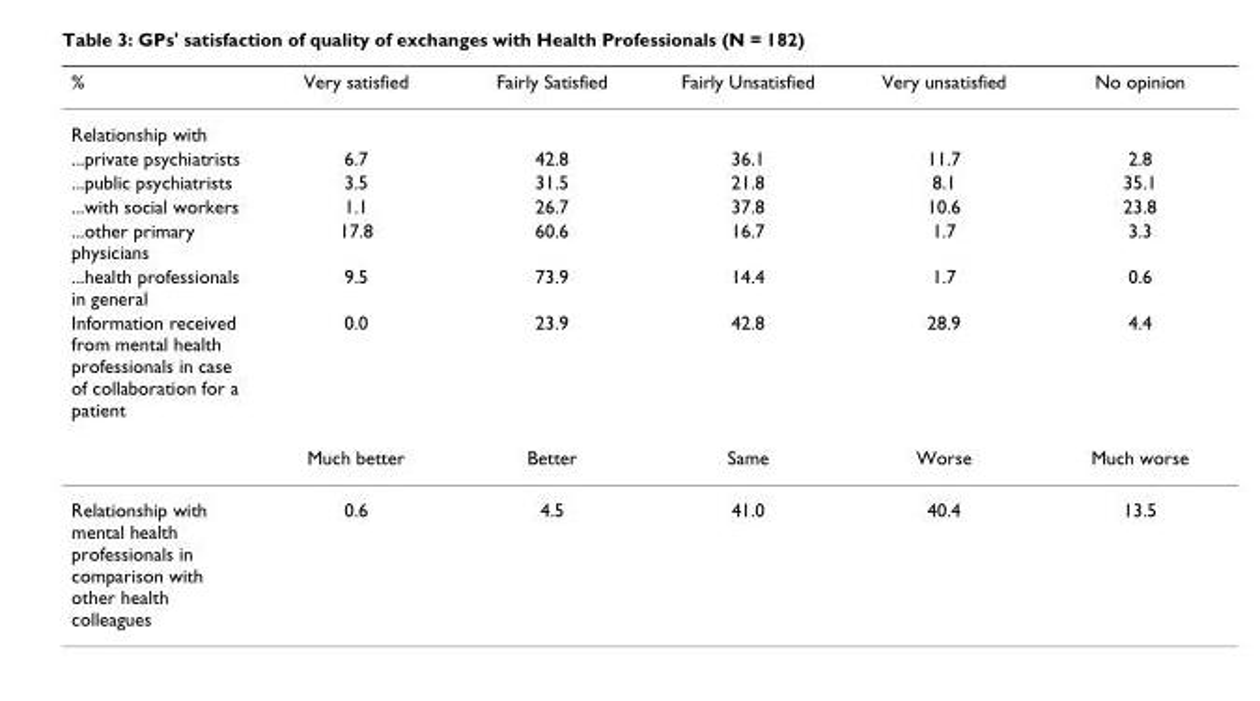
<table><thead><tr><td>%</td><td>Very satisfied</td><td>Fairly Satisfied</td><td>Fairly Unsatisfied</td><td>Very unsatisfied</td><td>No opinion</td></tr></thead><tbody><tr><td colspan="6">Relationship with</td></tr><tr><td>...private psychiatrists</td><td>6.7</td><td>42.8</td><td>36.1</td><td>11.7</td><td>2.8</td></tr><tr><td>...public psychiatrists</td><td>3.5</td><td>31.5</td><td>21.8</td><td>8.1</td><td>35.1</td></tr><tr><td>...with social workers</td><td>1.1</td><td>26.7</td><td>37.8</td><td>10.6</td><td>23.8</td></tr><tr><td>...other primary physicians</td><td>17.8</td><td>60.6</td><td>16.7</td><td>1.7</td><td>3.3</td></tr><tr><td>...health professionals in general</td><td>9.5</td><td>73.9</td><td>14.4</td><td>1.7</td><td>0.6</td></tr><tr><td rowspan="2">Information received from mental health professionals in case of collaboration for a patient</td><td>0.0</td><td>23.9</td><td>42.8</td><td>28.9</td><td>4.4</td></tr><tr><td>Much better</td><td>Better</td><td>Same</td><td>Worse</td><td>Much worse</td></tr><tr><td>Relationship with mental health professionals in comparison with other health colleagues</td><td>0.6</td><td>4.5</td><td>41.0</td><td>40.4</td><td>13.5</td></tr></tbody></table>